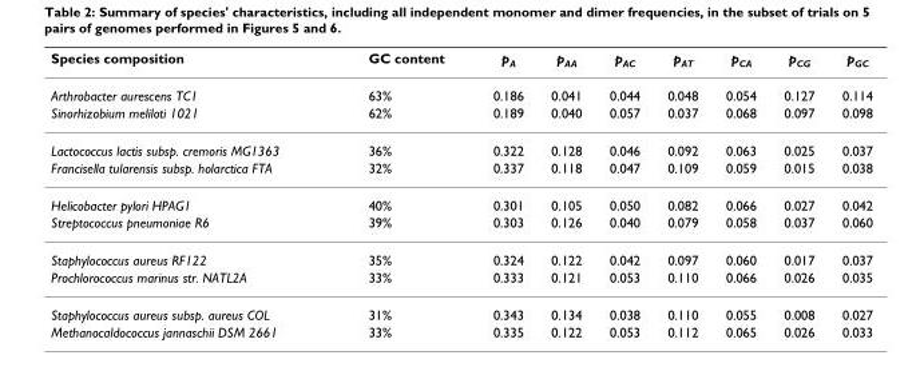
<table><thead><tr><td>Species composition</td><td>GC content</td><td>p<sub>A</sub></td><td>p<sub>AA</sub></td><td>p<sub>AC</sub></td><td>p<sub>AT</sub></td><td>p<sub>CA</sub></td><td>p<sub>CG</sub></td><td>p<sub>GC</sub></td></tr></thead><tbody><tr><td>Arthrobacter aurescens TC1</td><td>63%</td><td>0.186</td><td>0.041</td><td>0.044</td><td>0.048</td><td>0.054</td><td>0.127</td><td>0.114</td></tr><tr><td>Sinorhizobium meliloti 1021</td><td>62%</td><td>0.189</td><td>0.040</td><td>0.057</td><td>0.037</td><td>0.068</td><td>0.097</td><td>0.098</td></tr><tr><td>Lactococcus lactis subsp. cremoris MG1363</td><td>36%</td><td>0.322</td><td>0.128</td><td>0.046</td><td>0.092</td><td>0.063</td><td>0.025</td><td>0.037</td></tr><tr><td>Francisella tularensis subsp. holarctica FTA</td><td>32%</td><td>0.337</td><td>0.118</td><td>0.047</td><td>0.109</td><td>0.059</td><td>0.015</td><td>0.038</td></tr><tr><td>Helicobacter pylori HPAG1</td><td>40%</td><td>0.301</td><td>0.105</td><td>0.050</td><td>0.082</td><td>0.066</td><td>0.027</td><td>0.042</td></tr><tr><td>Streptococcus pneumoniae R6</td><td>39%</td><td>0.303</td><td>0.126</td><td>0.040</td><td>0.079</td><td>0.058</td><td>0.037</td><td>0.060</td></tr><tr><td>Staphylococcus aureus RF122</td><td>35%</td><td>0.324</td><td>0.122</td><td>0.042</td><td>0.097</td><td>0.060</td><td>0.017</td><td>0.037</td></tr><tr><td>Prochlorococcus marinus str. NATL2A</td><td>33%</td><td>0.333</td><td>0.121</td><td>0.053</td><td>0.110</td><td>0.066</td><td>0.026</td><td>0.035</td></tr><tr><td>Staphylococcus aureus subsp. aureus COL</td><td>31%</td><td>0.343</td><td>0.134</td><td>0.038</td><td>0.110</td><td>0.055</td><td>0.008</td><td>0.027</td></tr><tr><td>Methanocaldococcus jannaschii DSM 2661</td><td>33%</td><td>0.335</td><td>0.122</td><td>0.053</td><td>0.112</td><td>0.065</td><td>0.026</td><td>0.033</td></tr></tbody></table>